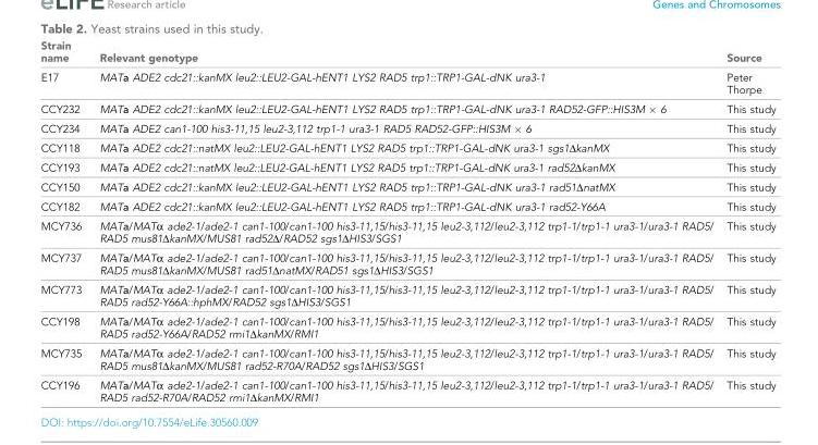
<table><thead><tr><td>Strain name</td><td>Relevant genotype</td><td>Source</td></tr></thead><tbody><tr><td>E17</td><td>MATa ADE2 cdc21::kanMX leu2::LEU2-GAL-hENT1 LYS2 RAD5 trp1::TRP1-GAL-dNK ura3-1</td><td>Peter Thorpe</td></tr><tr><td>CCY232</td><td>MATa ADE2 cdc21::kanMX leu2::LEU2-GAL-hENT1 LYS2 RAD5 trp1::TRP1-GAL-dNK ura3-1 RAD52-GFP::HIS3M × 6</td><td>This study</td></tr><tr><td>CCY234</td><td>MATa ADE2 can1-100 his3-11,15 leu2-3,112 trp1-1 ura3-1 RAD5 RAD52-GFP::HIS3M × 6</td><td>This study</td></tr><tr><td>CCY118</td><td>MATa ADE2 cdc21::natMX leu2::LEU2-GAL-hENT1 LYS2 RAD5 trp1::TRP1-GAL-dNK ura3-1 sgs1∆kanMX</td><td>This study</td></tr><tr><td>CCY193</td><td>MATa ADE2 cdc21::natMX leu2::LEU2-GAL-hENT1 LYS2 RAD5 trp1::TRP1-GAL-dNK ura3-1 rad52∆kanMX</td><td>This study</td></tr><tr><td>CCY150</td><td>MATa ADE2 cdc21::kanMX leu2::LEU2-GAL-hENT1 LYS2 RAD5 trp1::TRP1-GAL-dNK ura3-1 rad51∆natMX</td><td>This study</td></tr><tr><td>CCY182</td><td>MATa ADE2 cdc21::kanMX leu2::LEU2-GAL-hENT1 LYS2 RAD5 trp1::TRP1-GAL-dNK ura3-1 rad52-Y66A</td><td>This study</td></tr><tr><td>MCY736</td><td>MATa/MATα ade2-1/ade2-1 can1-100/can1-100 his3-11,15/his3-11,15 leu2-3,112/leu2-3,112 trp1-1/trp1-1 ura3-1/ura3-1 RAD5/ RAD5 mus81ΔkanMX/MUS81 rad52∆/RAD52 sgs1ΔHIS3/SGS1</td><td>This study</td></tr><tr><td>MCY737</td><td>MATa/MATα ade2-1/ade2-1 can1-100/can1-100 his3-11,15/his3-11,15 leu2-3,112/leu2-3,112 trp1-1/trp1-1 ura3-1/ura3-1 RAD5/ RAD5 mus81ΔkanMX/MUS81 rad51∆natMX/RAD51 sgs1ΔHIS3/SGS1</td><td>This study</td></tr><tr><td>MCY773</td><td>MATa/MATα ade2-1/ade2-1 can1-100/can1-100 his3-11,15/his3-11,15 leu2-3,112/leu2-3,112 trp1-1/trp1-1 ura3-1/ura3-1 RAD5/ RAD5 rad52-Y66A::hphMX/RAD52 sgs1ΔHIS3/SGS1</td><td>This study</td></tr><tr><td>CCY198</td><td>MATa/MATα ade2-1/ade2-1 can1-100/can1-100 his3-11,15/his3-11,15 leu2-3,112/leu2-3,112 trp1-1/trp1-1 ura3-1/ura3-1 RAD5/ RAD5 rad52-Y66A/RAD52 rmi1ΔkanMX/RMI1</td><td>This study</td></tr><tr><td>MCY735</td><td>MATa/MATα ade2-1/ade2-1 can1-100/can1-100 his3-11,15/his3-11,15 leu2-3,112/leu2-3,112 trp1-1/trp1-1 ura3-1/ura3-1 RAD5/ RAD5 mus81ΔkanMX/MUS81 rad52-R70A/RAD52 sgs1ΔHIS3/SGS1</td><td>This study</td></tr><tr><td>CCY196</td><td>MATa/MATα ade2-1/ade2-1 can1-100/can1-100 his3-11,15/his3-11,15 leu2-3,112/leu2-3,112 trp1-1/trp1-1 ura3-1/ura3-1 RAD5/ RAD5 rad52-R70A/RAD52 rmi1ΔkanMX/RMI1</td><td>This study</td></tr></tbody></table>